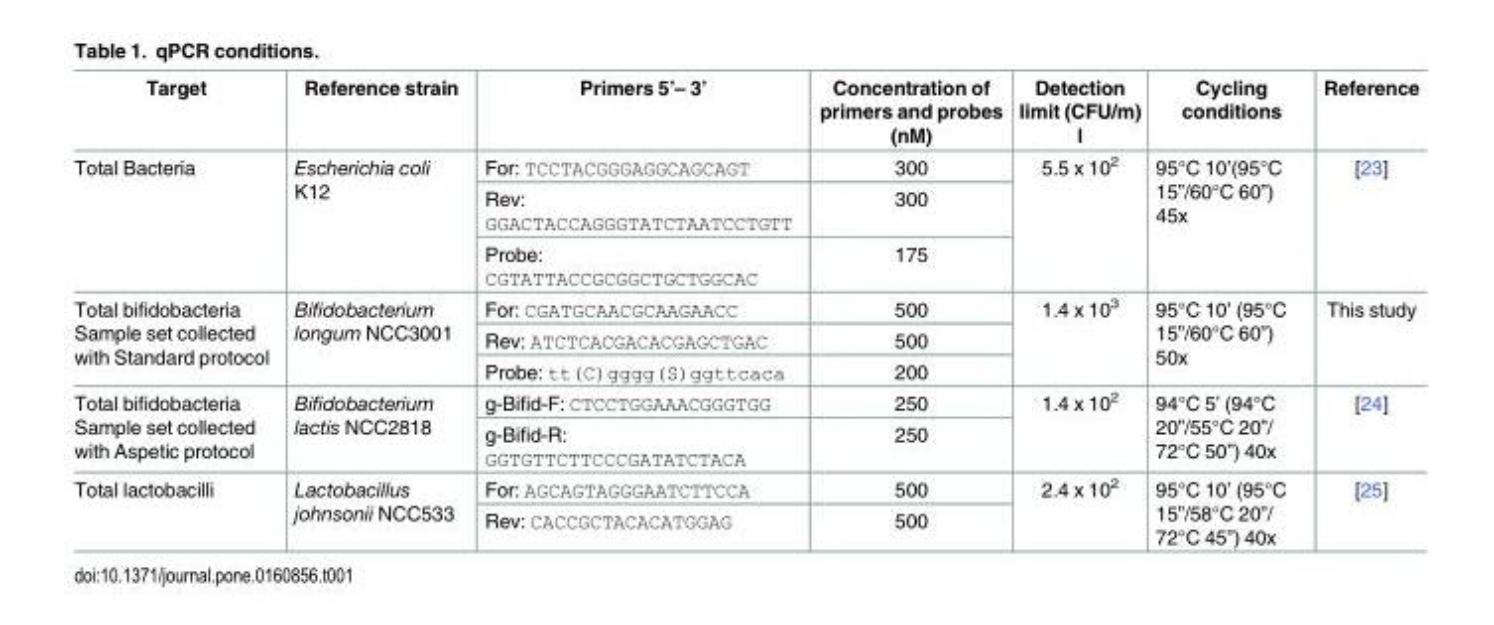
<table><thead><tr><td>Target</td><td>Reference strain</td><td>Primers 5’– 3’</td><td>Concentration of primers and probes (nM)</td><td>Detection limit (CFU/m) l</td><td>Cycling conditions</td><td>Reference</td></tr></thead><tbody><tr><td rowspan="3">Total Bacteria</td><td rowspan="3">Escherichia coli K12</td><td>For: TCCTACGGGAGGCAGCAGT</td><td>300</td><td rowspan="3">5.5 x 10<sup>2</sup></td><td rowspan="3">95°C 10’(95°C 15”/60°C 60”) 45x</td><td rowspan="3">[23]</td></tr><tr><td>Rev: GGACTACCAGGGTATCTAATCCTGTT</td><td>300</td></tr><tr><td>Probe: CGTATTACCGCGGCTGCTGGCAC</td><td>175</td></tr><tr><td rowspan="3">Total bifidobacteria Sample set collected with Standard protocol</td><td rowspan="3">Bifidobacterium longum NCC3001</td><td>For: CGATGCAACGCAAGAACC</td><td>500</td><td rowspan="3">1.4 x 10<sup>3</sup></td><td rowspan="3">95°C 10’ (95°C 15”/60°C 60”) 50x</td><td rowspan="3">This study</td></tr><tr><td>Rev: ATCTCACGACACGAGCTGAC</td><td>500</td></tr><tr><td>Probe: tt(C)gggg(S)ggttcaca</td><td>200</td></tr><tr><td rowspan="2">Total bifidobacteria Sample set collected with Aspetic protocol</td><td rowspan="2">Bifidobacterium lactis NCC2818</td><td>g-Bifid-F: CTCCTGGAAACGGGTGG</td><td>250</td><td rowspan="2">1.4 x 10<sup>2</sup></td><td rowspan="2">94°C 5’ (94°C 20”/55°C 20”/ 72°C 50”) 40x</td><td rowspan="2">[24]</td></tr><tr><td>g-Bifid-R: GGTGTTCTTCCCGATATCTACA</td><td>250</td></tr><tr><td rowspan="2">Total lactobacilli</td><td rowspan="2">Lactobacillus johnsonii NCC533</td><td>For: AGCAGTAGGGAATCTTCCA</td><td>500</td><td rowspan="2">2.4 x 10<sup>2</sup></td><td rowspan="2">95°C 10’ (95°C 15”/58°C 20”/ 72°C 45”) 40x</td><td rowspan="2">[25]</td></tr><tr><td>Rev: CACCGCTACACATGGAG</td><td>500</td></tr></tbody></table>